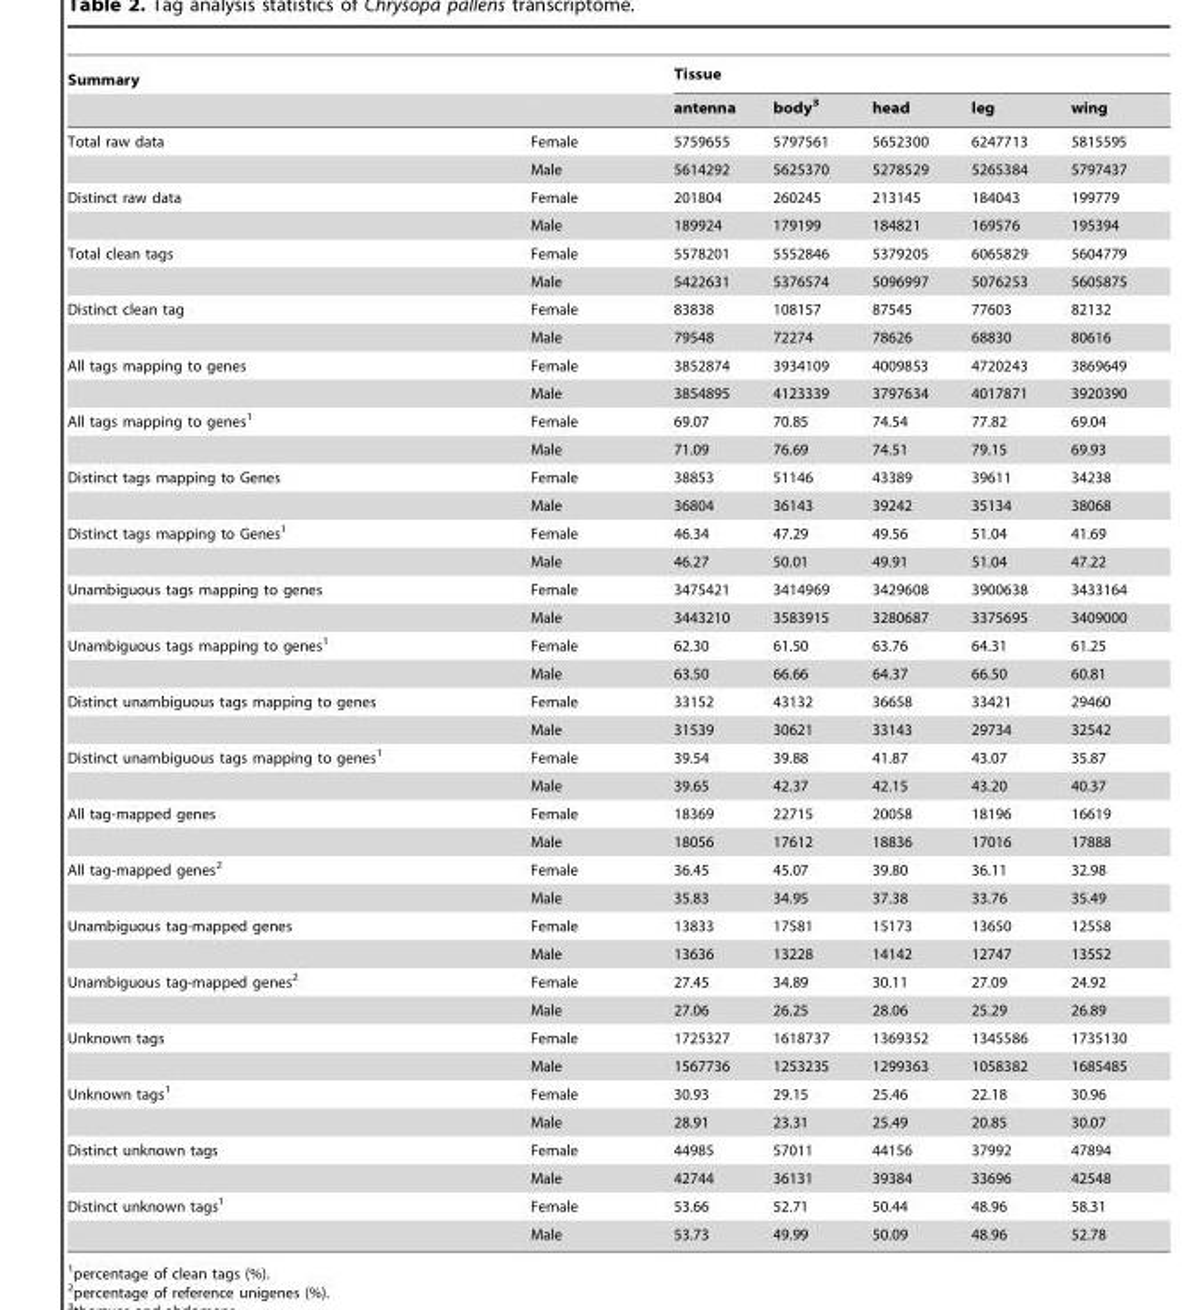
<table><thead><tr><td rowspan="2">Summary</td><td rowspan="2"></td><td colspan="5">Tissue</td></tr><tr><td>antenna</td><td>body<sup>3</sup></td><td>head</td><td>leg</td><td>wing</td></tr></thead><tbody><tr><td rowspan="2">Total raw data</td><td>Female</td><td>5759655</td><td>5797561</td><td>5652300</td><td>6247713</td><td>5815595</td></tr><tr><td>Male</td><td>5614292</td><td>5625370</td><td>5278529</td><td>5265384</td><td>5797437</td></tr><tr><td rowspan="2">Distinct raw data</td><td>Female</td><td>201804</td><td>260245</td><td>213145</td><td>184043</td><td>199779</td></tr><tr><td>Male</td><td>189924</td><td>179199</td><td>184821</td><td>169576</td><td>195394</td></tr><tr><td rowspan="2">Total clean tags</td><td>Female</td><td>5578201</td><td>5552846</td><td>5379205</td><td>6065829</td><td>5604779</td></tr><tr><td>Male</td><td>5422631</td><td>5376574</td><td>5096997</td><td>5076253</td><td>5605875</td></tr><tr><td rowspan="2">Distinct clean tag</td><td>Female</td><td>83838</td><td>108157</td><td>87545</td><td>77603</td><td>82132</td></tr><tr><td>Male</td><td>79548</td><td>72274</td><td>78626</td><td>68830</td><td>80616</td></tr><tr><td rowspan="2">All tags mapping to genes</td><td>Female</td><td>3852874</td><td>3934109</td><td>4009853</td><td>4720243</td><td>3869649</td></tr><tr><td>Male</td><td>3854895</td><td>4123339</td><td>3797634</td><td>4017871</td><td>3920390</td></tr><tr><td rowspan="2">All tags mapping to genes<sup>1</sup></td><td>Female</td><td>69.07</td><td>70.85</td><td>74.54</td><td>77.82</td><td>69.04</td></tr><tr><td>Male</td><td>71.09</td><td>76.69</td><td>74.51</td><td>79.15</td><td>69.93</td></tr><tr><td rowspan="2">Distinct tags mapping to Genes</td><td>Female</td><td>38853</td><td>51146</td><td>43389</td><td>39611</td><td>34238</td></tr><tr><td>Male</td><td>36804</td><td>36143</td><td>39242</td><td>35134</td><td>38068</td></tr><tr><td rowspan="2">Distinct tags mapping to Genes<sup>1</sup></td><td>Female</td><td>46.34</td><td>47.29</td><td>49.56</td><td>51.04</td><td>41.69</td></tr><tr><td>Male</td><td>46.27</td><td>50.01</td><td>49.91</td><td>51.04</td><td>47.22</td></tr><tr><td rowspan="2">Unambiguous tags mapping to genes</td><td>Female</td><td>3475421</td><td>3414969</td><td>3429608</td><td>3900638</td><td>3433164</td></tr><tr><td>Male</td><td>3443210</td><td>3583915</td><td>3280687</td><td>3375695</td><td>3409000</td></tr><tr><td rowspan="2">Unambiguous tags mapping to genes<sup>1</sup></td><td>Female</td><td>62.30</td><td>61.50</td><td>63.76</td><td>64.31</td><td>61.25</td></tr><tr><td>Male</td><td>63.50</td><td>66.66</td><td>64.37</td><td>66.50</td><td>60.81</td></tr><tr><td rowspan="2">Distinct unambiguous tags mapping to genes</td><td>Female</td><td>33152</td><td>43132</td><td>36658</td><td>33421</td><td>29460</td></tr><tr><td>Male</td><td>31539</td><td>30621</td><td>33143</td><td>29734</td><td>32542</td></tr><tr><td rowspan="2">Distinct unambiguous tags mapping to genes<sup>1</sup></td><td>Female</td><td>39.54</td><td>39.88</td><td>41.87</td><td>43.07</td><td>35.87</td></tr><tr><td>Male</td><td>39.65</td><td>42.37</td><td>42.15</td><td>43.20</td><td>40.37</td></tr><tr><td rowspan="2">All tag-mapped genes</td><td>Female</td><td>18369</td><td>22715</td><td>20058</td><td>18196</td><td>16619</td></tr><tr><td>Male</td><td>18056</td><td>17612</td><td>18836</td><td>17016</td><td>17888</td></tr><tr><td rowspan="2">All tag-mapped genes<sup>2</sup></td><td>Female</td><td>36.45</td><td>45.07</td><td>39.80</td><td>36.11</td><td>32.98</td></tr><tr><td>Male</td><td>35.83</td><td>34.95</td><td>37.38</td><td>33.76</td><td>35.49</td></tr><tr><td rowspan="2">Unambiguous tag-mapped genes</td><td>Female</td><td>13833</td><td>17581</td><td>15173</td><td>13650</td><td>12558</td></tr><tr><td>Male</td><td>13636</td><td>13228</td><td>14142</td><td>12747</td><td>13552</td></tr><tr><td rowspan="2">Unambiguous tag-mapped genes<sup>2</sup></td><td>Female</td><td>27.45</td><td>34.89</td><td>30.11</td><td>27.09</td><td>24.92</td></tr><tr><td>Male</td><td>27.06</td><td>26.25</td><td>28.06</td><td>25.29</td><td>26.89</td></tr><tr><td rowspan="2">Unknown tags</td><td>Female</td><td>1725327</td><td>1618737</td><td>1369352</td><td>1345586</td><td>1735130</td></tr><tr><td>Male</td><td>1567736</td><td>1253235</td><td>1299363</td><td>1058382</td><td>1685485</td></tr><tr><td rowspan="2">Unknown tags<sup>1</sup></td><td>Female</td><td>30.93</td><td>29.15</td><td>25.46</td><td>22.18</td><td>30.96</td></tr><tr><td>Male</td><td>28.91</td><td>23.31</td><td>25.49</td><td>20.85</td><td>30.07</td></tr><tr><td rowspan="2">Distinct unknown tags</td><td>Female</td><td>44985</td><td>57011</td><td>44156</td><td>37992</td><td>47894</td></tr><tr><td>Male</td><td>42744</td><td>36131</td><td>39384</td><td>33696</td><td>42548</td></tr><tr><td rowspan="2">Distinct unknown tags<sup>1</sup></td><td>Female</td><td>53.66</td><td>52.71</td><td>50.44</td><td>48.96</td><td>58.31</td></tr><tr><td>Male</td><td>53.73</td><td>49.99</td><td>50.09</td><td>48.96</td><td>52.78</td></tr></tbody></table>